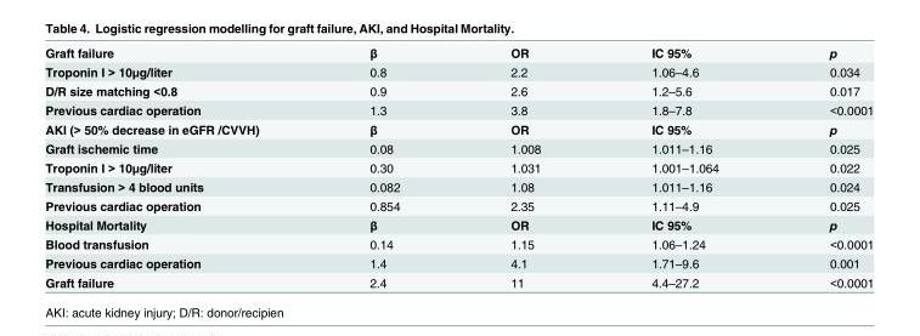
<table><tbody><tr><td>Graft failure</td><td>β</td><td>OR</td><td>IC 95%</td><td>p</td></tr><tr><td>Troponin I &gt; 10μg/liter</td><td>0.8</td><td>2.2</td><td>1.06–4.6</td><td>0.034</td></tr><tr><td>D/R size matching &lt;0.8</td><td>0.9</td><td>2.6</td><td>1.2–5.6</td><td>0.017</td></tr><tr><td>Previous cardiac operation</td><td>1.3</td><td>3.8</td><td>1.8–7.8</td><td>&lt;0.0001</td></tr><tr><td>AKI (&gt; 50% decrease in eGFR /CVVH)</td><td>β</td><td>OR</td><td>IC 95%</td><td>p</td></tr><tr><td>Graft ischemic time</td><td>0.08</td><td>1.008</td><td>1.011–1.16</td><td>0.025</td></tr><tr><td>Troponin I &gt; 10μg/liter</td><td>0.30</td><td>1.031</td><td>1.001–1.064</td><td>0.022</td></tr><tr><td>Transfusion &gt; 4 blood units</td><td>0.082</td><td>1.08</td><td>1.011–1.16</td><td>0.024</td></tr><tr><td>Previous cardiac operation</td><td>0.854</td><td>2.35</td><td>1.11–4.9</td><td>0.025</td></tr><tr><td>Hospital Mortality</td><td>β</td><td>OR</td><td>IC 95%</td><td>p</td></tr><tr><td>Blood transfusion</td><td>0.14</td><td>1.15</td><td>1.06–1.24</td><td>&lt;0.0001</td></tr><tr><td>Previous cardiac operation</td><td>1.4</td><td>4.1</td><td>1.71–9.6</td><td>0.001</td></tr><tr><td>Graft failure</td><td>2.4</td><td>11</td><td>4.4–27.2</td><td>&lt;0.0001</td></tr></tbody></table>